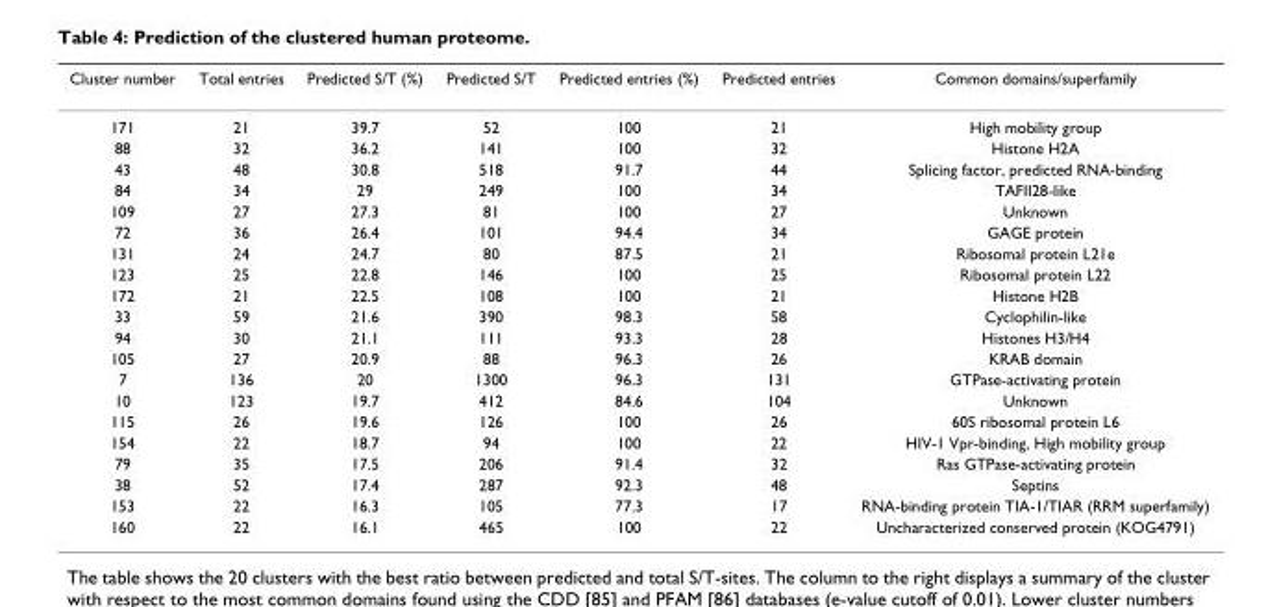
<table><thead><tr><td>Cluster number</td><td>Total entries</td><td>Predicted S/T (%)</td><td>Predicted S/T</td><td>Predicted entries (%)</td><td>Predicted entries</td><td>Common domains/superfamily</td></tr></thead><tbody><tr><td>171</td><td>21</td><td>39.7</td><td>52</td><td>100</td><td>21</td><td>High mobility group</td></tr><tr><td>88</td><td>32</td><td>36.2</td><td>141</td><td>100</td><td>32</td><td>Histone H2A</td></tr><tr><td>43</td><td>48</td><td>30.8</td><td>518</td><td>91.7</td><td>44</td><td>Splicing factor, predicted RNA-binding</td></tr><tr><td>84</td><td>34</td><td>29</td><td>249</td><td>100</td><td>34</td><td>TAFII28-like</td></tr><tr><td>109</td><td>27</td><td>27.3</td><td>81</td><td>100</td><td>27</td><td>Unknown</td></tr><tr><td>72</td><td>36</td><td>26.4</td><td>101</td><td>94.4</td><td>34</td><td>GAGE protein</td></tr><tr><td>131</td><td>24</td><td>24.7</td><td>80</td><td>87.5</td><td>21</td><td>Ribosomal protein L21e</td></tr><tr><td>123</td><td>25</td><td>22.8</td><td>146</td><td>100</td><td>25</td><td>Ribosomal protein L22</td></tr><tr><td>172</td><td>21</td><td>22.5</td><td>108</td><td>100</td><td>21</td><td>Histone H2B</td></tr><tr><td>33</td><td>59</td><td>21.6</td><td>390</td><td>98.3</td><td>58</td><td>Cyclophilin-like</td></tr><tr><td>94</td><td>30</td><td>21.1</td><td>111</td><td>93.3</td><td>28</td><td>Histones H3/H4</td></tr><tr><td>105</td><td>27</td><td>20.9</td><td>88</td><td>96.3</td><td>26</td><td>KRAB domain</td></tr><tr><td>7</td><td>136</td><td>20</td><td>1300</td><td>96.3</td><td>131</td><td>GTPase-activating protein</td></tr><tr><td>10</td><td>123</td><td>19.7</td><td>412</td><td>84.6</td><td>104</td><td>Unknown</td></tr><tr><td>115</td><td>26</td><td>19.6</td><td>126</td><td>100</td><td>26</td><td>60S ribosomal protein L6</td></tr><tr><td>154</td><td>22</td><td>18.7</td><td>94</td><td>100</td><td>22</td><td>HIV-1 Vpr-binding, High mobility group</td></tr><tr><td>79</td><td>35</td><td>17.5</td><td>206</td><td>91.4</td><td>32</td><td>Ras GTPase-activating protein</td></tr><tr><td>38</td><td>52</td><td>17.4</td><td>287</td><td>92.3</td><td>48</td><td>Septins</td></tr><tr><td>153</td><td>22</td><td>16.3</td><td>105</td><td>77.3</td><td>17</td><td>RNA-binding protein TIA-1/TIAR (RRM superfamily)</td></tr><tr><td>160</td><td>22</td><td>16.1</td><td>465</td><td>100</td><td>22</td><td>Uncharacterized conserved protein (KOG4791)</td></tr></tbody></table>